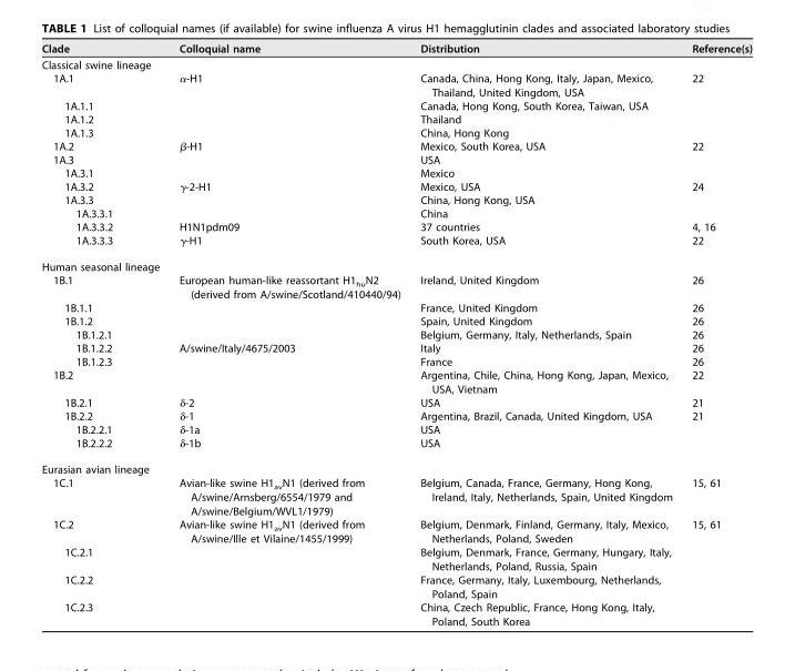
<table><thead><tr><td>Clade</td><td>Colloquial name</td><td>Distribution</td><td>Reference(s)</td></tr></thead><tbody><tr><td colspan="4">Classical swine lineage</td></tr><tr><td>1A.1</td><td>α-H1</td><td>Canada, China, Hong Kong, Italy, Japan, Mexico, Thailand, United Kingdom, USA</td><td>22</td></tr><tr><td>1A.1.1</td><td></td><td>Canada, Hong Kong, South Korea, Taiwan, USA</td><td></td></tr><tr><td>1A.1.2</td><td></td><td>Thailand</td><td></td></tr><tr><td>1A.1.3</td><td></td><td>China, Hong Kong</td><td></td></tr><tr><td>1A.2</td><td>β-H1</td><td>Mexico, South Korea, USA</td><td>22</td></tr><tr><td>1A.3</td><td></td><td>USA</td><td></td></tr><tr><td>1A.3.1</td><td></td><td>Mexico</td><td></td></tr><tr><td>1A.3.2</td><td>γ-2-H1</td><td>Mexico, USA</td><td>24</td></tr><tr><td>1A.3.3</td><td></td><td>China, Hong Kong, USA</td><td></td></tr><tr><td>1A.3.3.1</td><td></td><td>China</td><td></td></tr><tr><td>1A.3.3.2</td><td>H1N1pdm09</td><td>37 countries</td><td>4, 16</td></tr><tr><td>1A.3.3.3</td><td>γ-H1</td><td>South Korea, USA</td><td>22</td></tr><tr><td colspan="4">Human seasonal lineage</td></tr><tr><td>1B.1</td><td>European human-like reassortant H1<sub>hu</sub>N2 (derived from A/swine/Scotland/410440/94)</td><td>Ireland, United Kingdom</td><td>26</td></tr><tr><td>1B.1.1</td><td></td><td>France, United Kingdom</td><td>26</td></tr><tr><td>1B.1.2</td><td></td><td>Spain, United Kingdom</td><td>26</td></tr><tr><td>1B.1.2.1</td><td></td><td>Belgium, Germany, Italy, Netherlands, Spain</td><td>26</td></tr><tr><td>1B.1.2.2</td><td>A/swine/Italy/4675/2003</td><td>Italy</td><td>26</td></tr><tr><td>1B.1.2.3</td><td></td><td>France</td><td>26</td></tr><tr><td>1B.2</td><td></td><td>Argentina, Chile, China, Hong Kong, Japan, Mexico, USA, Vietnam</td><td>22</td></tr><tr><td>1B.2.1</td><td>δ-2</td><td>USA</td><td>21</td></tr><tr><td>1B.2.2</td><td>δ-1</td><td>Argentina, Brazil, Canada, United Kingdom, USA</td><td>21</td></tr><tr><td>1B.2.2.1</td><td>δ-1a</td><td>USA</td><td></td></tr><tr><td>1B.2.2.2</td><td>δ-1b</td><td>USA</td><td></td></tr><tr><td colspan="4">Eurasian avian lineage</td></tr><tr><td>1C.1</td><td>Avian-like swine H1<sub>av</sub>N1 (derived from A/swine/Arnsberg/6554/1979 and A/swine/Belgium/WVL1/1979)</td><td>Belgium, Canada, France, Germany, Hong Kong, Ireland, Italy, Netherlands, Spain, United Kingdom</td><td>15, 61</td></tr><tr><td>1C.2</td><td>Avian-like swine H1<sub>av</sub>N1 (derived from A/swine/Ille et Vilaine/1455/1999)</td><td>Belgium, Denmark, Finland, Germany, Italy, Mexico, Netherlands, Poland, Sweden</td><td>15, 61</td></tr><tr><td>1C.2.1</td><td></td><td>Belgium, Denmark, France, Germany, Hungary, Italy, Netherlands, Poland, Russia, Spain</td><td></td></tr><tr><td>1C.2.2</td><td></td><td>France, Germany, Italy, Luxembourg, Netherlands, Poland, Spain</td><td></td></tr><tr><td>1C.2.3</td><td></td><td>China, Czech Republic, France, Hong Kong, Italy, Poland, South Korea</td><td></td></tr></tbody></table>